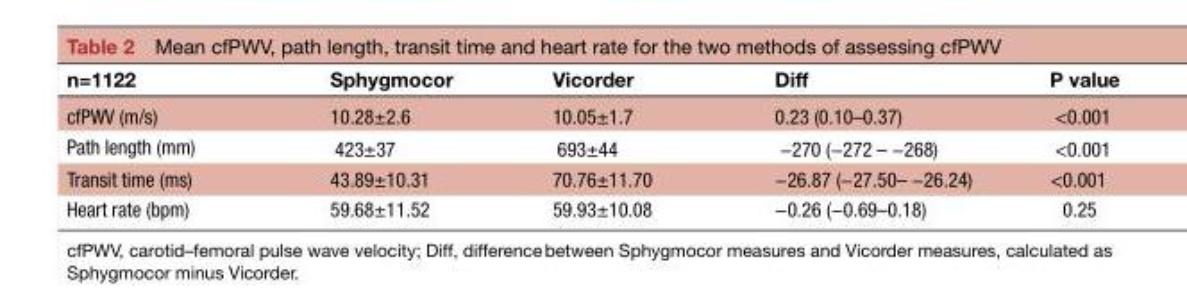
<table><thead><tr><td>n=1122</td><td>Sphygmocor</td><td>Vicorder</td><td>Diff</td><td>P value</td></tr></thead><tbody><tr><td>cfPWV (m/s)</td><td>10.28±2.6</td><td>10.05±1.7</td><td>0.23 (0.10–0.37)</td><td>&lt;0.001</td></tr><tr><td>Path length (mm)</td><td>423±37</td><td>693±44</td><td>−270 (−272 – −268)</td><td>&lt;0.001</td></tr><tr><td>Transit time (ms)</td><td>43.89±10.31</td><td>70.76±11.70</td><td>−26.87 (−27.50– −26.24)</td><td>&lt;0.001</td></tr><tr><td>Heart rate (bpm)</td><td>59.68±11.52</td><td>59.93±10.08</td><td>−0.26 (−0.69–0.18)</td><td>0.25</td></tr></tbody></table>